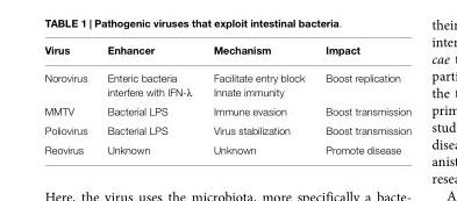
<table><thead><tr><td>Virus</td><td>Enhancer</td><td>Mechanism</td><td>Impact</td></tr></thead><tbody><tr><td>Norovirus</td><td>Enteric bacteria interfere with IFN-λ</td><td>Facilitate entry block Innate immunity</td><td>Boost replication</td></tr><tr><td>MMTV</td><td>Bacterial LPS</td><td>Immune evasion</td><td>Boost transmission</td></tr><tr><td>Poliovirus</td><td>Bacterial LPS</td><td>Virus stabilization</td><td>Boost transmission</td></tr><tr><td>Reovirus</td><td>Unknown</td><td>Unknown</td><td>Promote disease</td></tr></tbody></table>